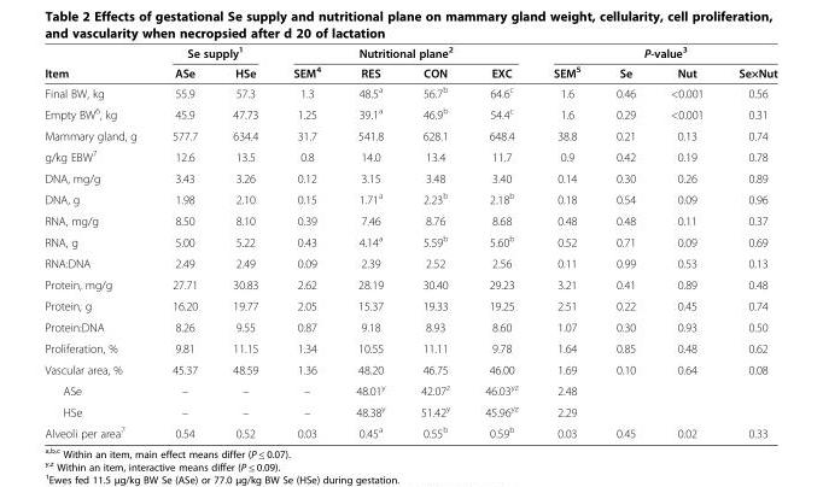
<table><thead><tr><td rowspan="2">Item</td><td colspan="2">Se supply<sup>1</sup></td><td colspan="4">Nutritional plane<sup>2</sup></td><td colspan="4">P-value<sup>3</sup></td></tr><tr><td>ASe</td><td>HSe</td><td>SEM<sup>4</sup></td><td>RES</td><td>CON</td><td>EXC</td><td>SEM<sup>5</sup></td><td>Se</td><td>Nut</td><td>Se×Nut</td></tr></thead><tbody><tr><td>Final BW, kg</td><td>55.9</td><td>57.3</td><td>1.3</td><td>48.5<sup>a</sup></td><td>56.7<sup>b</sup></td><td>64.6<sup>c</sup></td><td>1.6</td><td>0.46</td><td>&lt;0.001</td><td>0.56</td></tr><tr><td>Empty BW<sup>6</sup>, kg</td><td>45.9</td><td>47.73</td><td>1.25</td><td>39.1<sup>a</sup></td><td>46.9<sup>b</sup></td><td>54.4<sup>c</sup></td><td>1.6</td><td>0.29</td><td>&lt;0.001</td><td>0.31</td></tr><tr><td>Mammary gland, g</td><td>577.7</td><td>634.4</td><td>31.7</td><td>541.8</td><td>628.1</td><td>648.4</td><td>38.8</td><td>0.21</td><td>0.13</td><td>0.74</td></tr><tr><td>g/kg EBW<sup>7</sup></td><td>12.6</td><td>13.5</td><td>0.8</td><td>14.0</td><td>13.4</td><td>11.7</td><td>0.9</td><td>0.42</td><td>0.19</td><td>0.78</td></tr><tr><td>DNA, mg/g</td><td>3.43</td><td>3.26</td><td>0.12</td><td>3.15</td><td>3.48</td><td>3.40</td><td>0.14</td><td>0.30</td><td>0.26</td><td>0.89</td></tr><tr><td>DNA, g</td><td>1.98</td><td>2.10</td><td>0.15</td><td>1.71<sup>a</sup></td><td>2.23<sup>b</sup></td><td>2.18<sup>b</sup></td><td>0.18</td><td>0.54</td><td>0.09</td><td>0.96</td></tr><tr><td>RNA, mg/g</td><td>8.50</td><td>8.10</td><td>0.39</td><td>7.46</td><td>8.76</td><td>8.68</td><td>0.48</td><td>0.48</td><td>0.11</td><td>0.37</td></tr><tr><td>RNA, g</td><td>5.00</td><td>5.22</td><td>0.43</td><td>4.14<sup>a</sup></td><td>5.59<sup>b</sup></td><td>5.60<sup>b</sup></td><td>0.52</td><td>0.71</td><td>0.09</td><td>0.69</td></tr><tr><td>RNA:DNA</td><td>2.49</td><td>2.49</td><td>0.09</td><td>2.39</td><td>2.52</td><td>2.56</td><td>0.11</td><td>0.99</td><td>0.53</td><td>0.13</td></tr><tr><td>Protein, mg/g</td><td>27.71</td><td>30.83</td><td>2.62</td><td>28.19</td><td>30.40</td><td>29.23</td><td>3.21</td><td>0.41</td><td>0.89</td><td>0.48</td></tr><tr><td>Protein, g</td><td>16.20</td><td>19.77</td><td>2.05</td><td>15.37</td><td>19.33</td><td>19.25</td><td>2.51</td><td>0.22</td><td>0.45</td><td>0.74</td></tr><tr><td>Protein:DNA</td><td>8.26</td><td>9.55</td><td>0.87</td><td>9.18</td><td>8.93</td><td>8.60</td><td>1.07</td><td>0.30</td><td>0.93</td><td>0.50</td></tr><tr><td>Proliferation, %</td><td>9.81</td><td>11.15</td><td>1.34</td><td>10.55</td><td>11.11</td><td>9.78</td><td>1.64</td><td>0.85</td><td>0.48</td><td>0.62</td></tr><tr><td>Vascular area, %</td><td>45.37</td><td>48.59</td><td>1.36</td><td>48.20</td><td>46.75</td><td>46.00</td><td>1.69</td><td>0.10</td><td>0.64</td><td>0.08</td></tr><tr><td>ASe</td><td>–</td><td>–</td><td>–</td><td>48.01<sup>y</sup></td><td>42.07<sup>z</sup></td><td>46.03<sup>yz</sup></td><td>2.48</td><td></td><td></td><td></td></tr><tr><td>HSe</td><td>–</td><td>–</td><td>–</td><td>48.38<sup>y</sup></td><td>51.42<sup>y</sup></td><td>45.96<sup>yz</sup></td><td>2.29</td><td></td><td></td><td></td></tr><tr><td>Alveoli per area<sup>7</sup></td><td>0.54</td><td>0.52</td><td>0.03</td><td>0.45<sup>a</sup></td><td>0.55<sup>b</sup></td><td>0.59<sup>b</sup></td><td>0.03</td><td>0.45</td><td>0.02</td><td>0.33</td></tr></tbody></table>